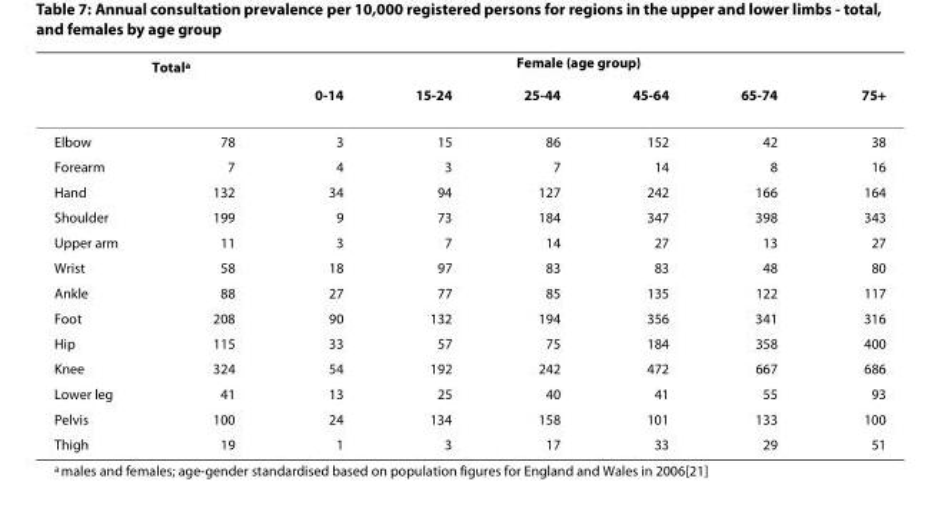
<table><thead><tr><td rowspan="2"></td><td rowspan="2">Total<sup>a</sup></td><td colspan="6">Female (age group)</td></tr><tr><td>0-14</td><td>15-24</td><td>25-44</td><td>45-64</td><td>65-74</td><td>75+</td></tr></thead><tbody><tr><td>Elbow</td><td>78</td><td>3</td><td>15</td><td>86</td><td>152</td><td>42</td><td>38</td></tr><tr><td>Forearm</td><td>7</td><td>4</td><td>3</td><td>7</td><td>14</td><td>8</td><td>16</td></tr><tr><td>Hand</td><td>132</td><td>34</td><td>94</td><td>127</td><td>242</td><td>166</td><td>164</td></tr><tr><td>Shoulder</td><td>199</td><td>9</td><td>73</td><td>184</td><td>347</td><td>398</td><td>343</td></tr><tr><td>Upper arm</td><td>11</td><td>3</td><td>7</td><td>14</td><td>27</td><td>13</td><td>27</td></tr><tr><td>Wrist</td><td>58</td><td>18</td><td>97</td><td>83</td><td>83</td><td>48</td><td>80</td></tr><tr><td>Ankle</td><td>88</td><td>27</td><td>77</td><td>85</td><td>135</td><td>122</td><td>117</td></tr><tr><td>Foot</td><td>208</td><td>90</td><td>132</td><td>194</td><td>356</td><td>341</td><td>316</td></tr><tr><td>Hip</td><td>115</td><td>33</td><td>57</td><td>75</td><td>184</td><td>358</td><td>400</td></tr><tr><td>Knee</td><td>324</td><td>54</td><td>192</td><td>242</td><td>472</td><td>667</td><td>686</td></tr><tr><td>Lower leg</td><td>41</td><td>13</td><td>25</td><td>40</td><td>41</td><td>55</td><td>93</td></tr><tr><td>Pelvis</td><td>100</td><td>24</td><td>134</td><td>158</td><td>101</td><td>133</td><td>100</td></tr><tr><td>Thigh</td><td>19</td><td>1</td><td>3</td><td>17</td><td>33</td><td>29</td><td>51</td></tr></tbody></table>